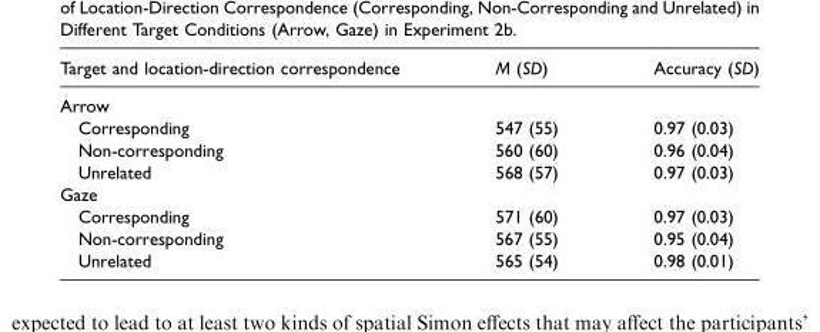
<table><thead><tr><td>Target and location-direction correspondence</td><td>M (SD)</td><td>Accuracy (SD)</td></tr></thead><tbody><tr><td colspan="3">Arrow</td></tr><tr><td>Corresponding</td><td>547 (55)</td><td>0.97 (0.03)</td></tr><tr><td>Non-corresponding</td><td>560 (60)</td><td>0.96 (0.04)</td></tr><tr><td>Unrelated</td><td>568 (57)</td><td>0.97 (0.03)</td></tr><tr><td colspan="3">Gaze</td></tr><tr><td>Corresponding</td><td>571 (60)</td><td>0.97 (0.03)</td></tr><tr><td>Non-corresponding</td><td>567 (55)</td><td>0.95 (0.04)</td></tr><tr><td>Unrelated</td><td>565 (54)</td><td>0.98 (0.01)</td></tr></tbody></table>